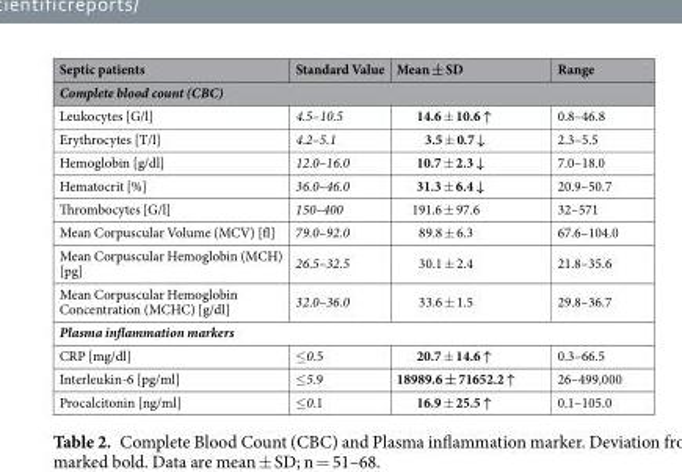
<table><thead><tr><td>Septic patients</td><td>Standard Value</td><td>Mean ± SD</td><td>Range</td></tr><tr><td colspan="4">Complete blood count (CBC)</td></tr></thead><tbody><tr><td>Leukocytes [G/l]</td><td>4.5–10.5</td><td>14.6 ± 10.6 ↑</td><td>0.8–46.8</td></tr><tr><td>Erythrocytes [T/l]</td><td>4.2–5.1</td><td>3.5 ± 0.7 ↓</td><td>2.3–5.5</td></tr><tr><td>Hemoglobin [g/dl]</td><td>12.0–16.0</td><td>10.7 ± 2.3 ↓</td><td>7.0–18.0</td></tr><tr><td>Hematocrit [%]</td><td>36.0–46.0</td><td>31.3 ± 6.4 ↓</td><td>20.9–50.7</td></tr><tr><td>Thrombocytes [G/l]</td><td>150–400</td><td>191.6 ± 97.6</td><td>32–571</td></tr><tr><td>Mean Corpuscular Volume (MCV) [fl]</td><td>79.0–92.0</td><td>89.8 ± 6.3</td><td>67.6–104.0</td></tr><tr><td>Mean Corpuscular Hemoglobin (MCH) [pg]</td><td>26.5–32.5</td><td>30.1 ± 2.4</td><td>21.8–35.6</td></tr><tr><td>Mean Corpuscular Hemoglobin Concentration (MCHC) [g/dl]</td><td>32.0–36.0</td><td>33.6 ± 1.5</td><td>29.8–36.7</td></tr><tr><td colspan="4">Plasma inflammation markers</td></tr><tr><td>CRP [mg/dl]</td><td>≤0.5</td><td>20.7 ± 14.6 ↑</td><td>0.3–66.5</td></tr><tr><td>Interleukin-6 [pg/ml]</td><td>≤5.9</td><td>18989.6 ± 71652.2 ↑</td><td>26–499,000</td></tr><tr><td>Procalcitonin [ng/ml]</td><td>≤0.1</td><td>16.9 ± 25.5 ↑</td><td>0.1–105.0</td></tr></tbody></table>